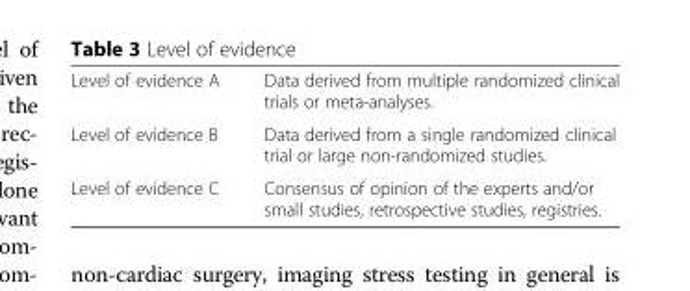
<table><tbody><tr><td>Level of evidence A</td><td>Data derived from multiple randomized clinical trials or meta-analyses.</td></tr><tr><td>Level of evidence B</td><td>Data derived from a single randomized clinical trial or large non-randomized studies.</td></tr><tr><td>Level of evidence C</td><td>Consensus of opinion of the experts and/or small studies, retrospective studies, registries.</td></tr></tbody></table>